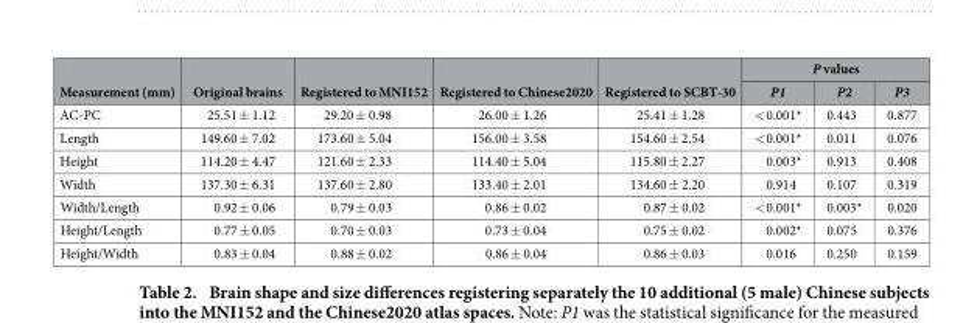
<table><thead><tr><td rowspan="2">Measurement (mm)</td><td rowspan="2">Original brains</td><td rowspan="2">Registered to MNI152</td><td rowspan="2">Registered to Chinese2020</td><td rowspan="2">Registered to SCBT-30</td><td colspan="3">P values</td></tr><tr><td>P1</td><td>P2</td><td>P3</td></tr></thead><tbody><tr><td>AC-PC</td><td>25.51 ± 1.12</td><td>29.20 ± 0.98</td><td>26.00 ± 1.26</td><td>25.41 ± 1.28</td><td>&lt; 0.001*</td><td>0.443</td><td>0.877</td></tr><tr><td>Length</td><td>149.60 ± 7.02</td><td>173.60 ± 5.04</td><td>156.00 ± 3.58</td><td>154.60 ± 2.54</td><td>&lt; 0.001*</td><td>0.011</td><td>0.076</td></tr><tr><td>Height</td><td>114.20 ± 4.47</td><td>121.60 ± 2.33</td><td>114.40 ± 5.04</td><td>115.80 ± 2.27</td><td>0.003*</td><td>0.913</td><td>0.408</td></tr><tr><td>Width</td><td>137.30 ± 6.31</td><td>137.60 ± 2.80</td><td>133.40 ± 2.01</td><td>134.60 ± 2.20</td><td>0.914</td><td>0.107</td><td>0.319</td></tr><tr><td>Width/Length</td><td>0.92 ± 0.06</td><td>0.79 ± 0.03</td><td>0.86 ± 0.02</td><td>0.87 ± 0.02</td><td>&lt; 0.001*</td><td>0.003*</td><td>0.020</td></tr><tr><td>Height/Length</td><td>0.77 ± 0.05</td><td>0.70 ± 0.03</td><td>0.73 ± 0.04</td><td>0.75 ± 0.02</td><td>0.002*</td><td>0.075</td><td>0.376</td></tr><tr><td>Height/Width</td><td>0.83 ± 0.04</td><td>0.88 ± 0.02</td><td>0.86 ± 0.04</td><td>0.86 ± 0.03</td><td>0.016</td><td>0.250</td><td>0.159</td></tr></tbody></table>